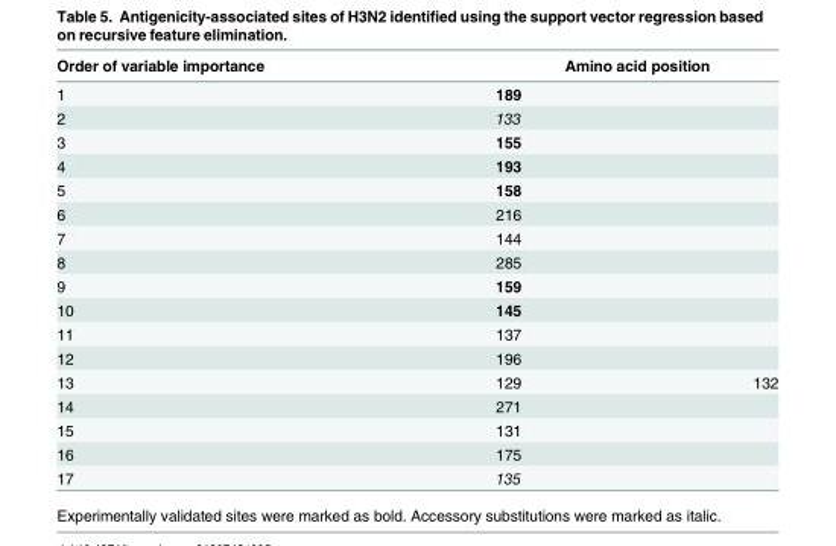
<table><thead><tr><td rowspan="2">Order of variable importance 1</td><td colspan="2">Amino acid position</td></tr><tr><td>189</td><td></td></tr></thead><tbody><tr><td>2</td><td>133</td><td></td></tr><tr><td>3</td><td>155</td><td></td></tr><tr><td>4</td><td>193</td><td></td></tr><tr><td>5</td><td>158</td><td></td></tr><tr><td>6</td><td>216</td><td></td></tr><tr><td>7</td><td>144</td><td></td></tr><tr><td>8</td><td>285</td><td></td></tr><tr><td>9</td><td>159</td><td></td></tr><tr><td>10</td><td>145</td><td></td></tr><tr><td>11</td><td>137</td><td></td></tr><tr><td>12</td><td>196</td><td></td></tr><tr><td>13</td><td>129</td><td>132</td></tr><tr><td>14</td><td>271</td><td></td></tr><tr><td>15</td><td>131</td><td></td></tr><tr><td>16</td><td>175</td><td></td></tr><tr><td>17</td><td>135</td><td></td></tr></tbody></table>